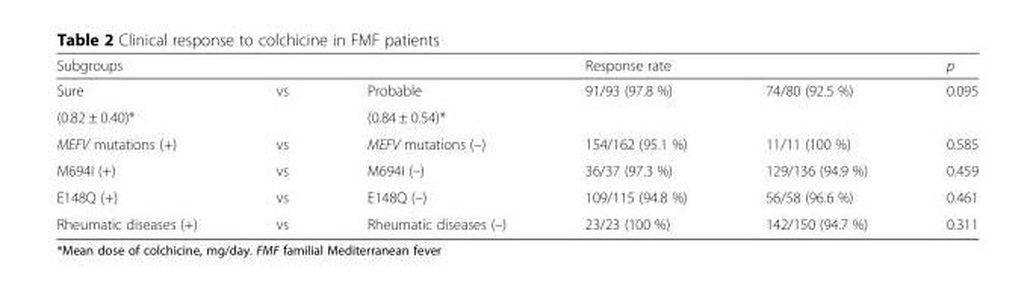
<table><thead><tr><td colspan="3">Subgroups</td><td colspan="2">Response rate</td><td rowspan="2">p 0.095</td></tr><tr><td>Sure</td><td>vs</td><td>Probable</td><td>91/93 (97.8 %)</td><td>74/80 (92.5 %)</td></tr></thead><tbody><tr><td>(0.82 ± 0.40)*</td><td></td><td>(0.84 ± 0.54)*</td><td></td><td></td><td></td></tr><tr><td>MEFV mutations (+)</td><td>vs</td><td>MEFV mutations (–)</td><td>154/162 (95.1 %)</td><td>11/11 (100 %)</td><td>0.585</td></tr><tr><td>M694I (+)</td><td>vs</td><td>M694I (–)</td><td>36/37 (97.3 %)</td><td>129/136 (94.9 %)</td><td>0.459</td></tr><tr><td>E148Q (+)</td><td>vs</td><td>E148Q (–)</td><td>109/115 (94.8 %)</td><td>56/58 (96.6 %)</td><td>0.461</td></tr><tr><td>Rheumatic diseases (+)</td><td>vs</td><td>Rheumatic diseases (–)</td><td>23/23 (100 %)</td><td>142/150 (94.7 %)</td><td>0.311</td></tr></tbody></table>